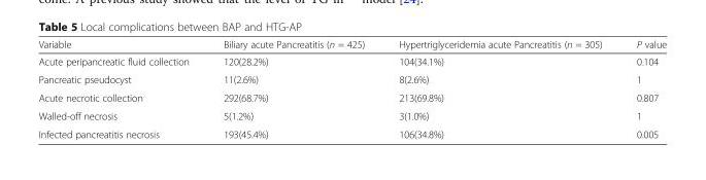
<table><thead><tr><td>Variable</td><td>Biliary acute Pancreatitis (n = 425)</td><td>Hypertriglyceridemia acute Pancreatitis (n = 305)</td><td>P value</td></tr></thead><tbody><tr><td>Acute peripancreatic fluid collection</td><td>120(28.2%)</td><td>104(34.1%)</td><td>0.104</td></tr><tr><td>Pancreatic pseudocyst</td><td>11(2.6%)</td><td>8(2.6%)</td><td>1</td></tr><tr><td>Acute necrotic collection</td><td>292(68.7%)</td><td>213(69.8%)</td><td>0.807</td></tr><tr><td>Walled-off necrosis</td><td>5(1.2%)</td><td>3(1.0%)</td><td>1</td></tr><tr><td>Infected pancreatitis necrosis</td><td>193(45.4%)</td><td>106(34.8%)</td><td>0.005</td></tr></tbody></table>